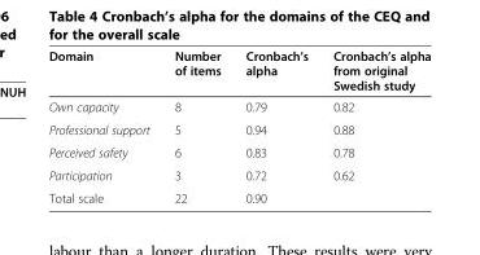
<table><thead><tr><td>Domain</td><td>Number of items</td><td>Cronbach’s alpha</td><td>Cronbach’s alpha from original Swedish study</td></tr></thead><tbody><tr><td>Own capacity</td><td>8</td><td>0.79</td><td>0.82</td></tr><tr><td>Professional support</td><td>5</td><td>0.94</td><td>0.88</td></tr><tr><td>Perceived safety</td><td>6</td><td>0.83</td><td>0.78</td></tr><tr><td>Participation</td><td>3</td><td>0.72</td><td>0.62</td></tr><tr><td>Total scale</td><td>22</td><td>0.90</td><td></td></tr></tbody></table>